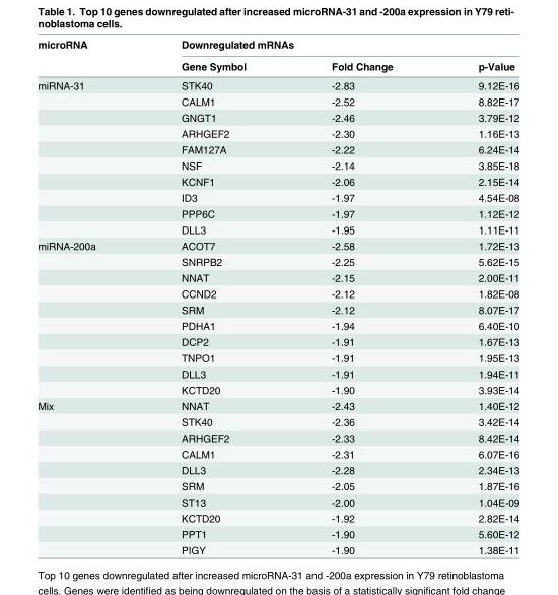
<table><thead><tr><td rowspan="2">microRNA</td><td colspan="3">Downregulated mRNAs</td></tr><tr><td>Gene Symbol</td><td>Fold Change</td><td>p-Value</td></tr></thead><tbody><tr><td rowspan="10">miRNA-31</td><td>STK40</td><td>-2.83</td><td>9.12E-16</td></tr><tr><td>CALM1</td><td>-2.52</td><td>8.82E-17</td></tr><tr><td>GNGT1</td><td>-2.46</td><td>3.79E-12</td></tr><tr><td>ARHGEF2</td><td>-2.30</td><td>1.16E-13</td></tr><tr><td>FAM127A</td><td>-2.22</td><td>6.24E-14</td></tr><tr><td>NSF</td><td>-2.14</td><td>3.85E-18</td></tr><tr><td>KCNF1</td><td>-2.06</td><td>2.15E-14</td></tr><tr><td>ID3</td><td>-1.97</td><td>4.54E-08</td></tr><tr><td>PPP6C</td><td>-1.97</td><td>1.12E-12</td></tr><tr><td>DLL3</td><td>-1.95</td><td>1.11E-11</td></tr><tr><td rowspan="10">miRNA-200a</td><td>ACOT7</td><td>-2.58</td><td>1.72E-13</td></tr><tr><td>SNRPB2</td><td>-2.25</td><td>5.62E-15</td></tr><tr><td>NNAT</td><td>-2.15</td><td>2.00E-11</td></tr><tr><td>CCND2</td><td>-2.12</td><td>1.82E-08</td></tr><tr><td>SRM</td><td>-2.12</td><td>8.07E-17</td></tr><tr><td>PDHA1</td><td>-1.94</td><td>6.40E-10</td></tr><tr><td>DCP2</td><td>-1.91</td><td>1.67E-13</td></tr><tr><td>TNPO1</td><td>-1.91</td><td>1.95E-13</td></tr><tr><td>DLL3</td><td>-1.91</td><td>1.94E-11</td></tr><tr><td>KCTD20</td><td>-1.90</td><td>3.93E-14</td></tr><tr><td rowspan="10">Mix</td><td>NNAT</td><td>-2.43</td><td>1.40E-12</td></tr><tr><td>STK40</td><td>-2.36</td><td>3.42E-14</td></tr><tr><td>ARHGEF2</td><td>-2.33</td><td>8.42E-14</td></tr><tr><td>CALM1</td><td>-2.31</td><td>6.07E-16</td></tr><tr><td>DLL3</td><td>-2.28</td><td>2.34E-13</td></tr><tr><td>SRM</td><td>-2.05</td><td>1.87E-16</td></tr><tr><td>ST13</td><td>-2.00</td><td>1.04E-09</td></tr><tr><td>KCTD20</td><td>-1.92</td><td>2.82E-14</td></tr><tr><td>PPT1</td><td>-1.90</td><td>5.60E-12</td></tr><tr><td>PIGY</td><td>-1.90</td><td>1.38E-11</td></tr></tbody></table>